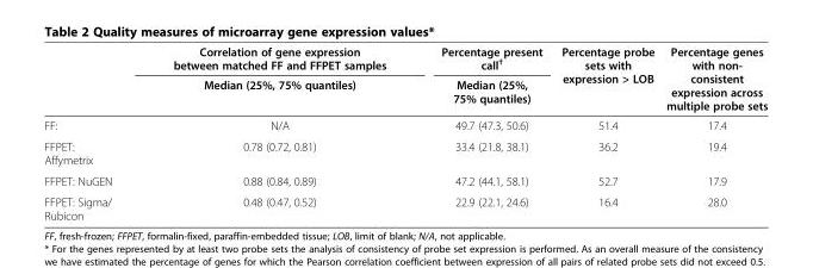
<table><thead><tr><td rowspan="2"></td><td rowspan="2">Correlation of gene expression between matched FF and FFPET samples Median (25%, 75% quantiles)</td><td rowspan="2">Percentage present call<sup>†</sup> Median (25%, 75% quantiles)</td><td rowspan="2">Percentage probe sets with expression &gt; LOB</td><td rowspan="2">Percentage genes with non- consistent expression across multiple probe sets</td></tr><tr></tr></thead><tbody><tr><td>FF:</td><td>N/A</td><td>49.7 (47.3, 50.6)</td><td>51.4</td><td>17.4</td></tr><tr><td>FFPET: Affymetrix</td><td>0.78 (0.72, 0.81)</td><td>33.4 (21.8, 38.1)</td><td>36.2</td><td>19.4</td></tr><tr><td>FFPET: NuGEN</td><td>0.88 (0.84, 0.89)</td><td>47.2 (44.1, 58.1)</td><td>52.7</td><td>17.9</td></tr><tr><td>FFPET: Sigma/ Rubicon</td><td>0.48 (0.47, 0.52)</td><td>22.9 (22.1, 24.6)</td><td>16.4</td><td>28.0</td></tr></tbody></table>